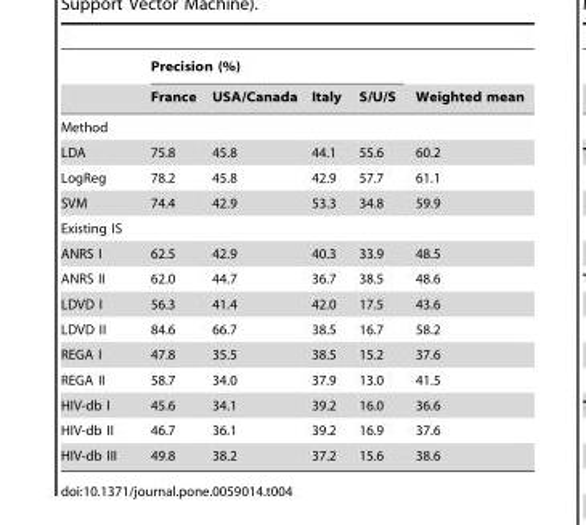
<table><thead><tr><td rowspan="2"></td><td colspan="4">Precision (%)</td><td rowspan="2">Weighted mean</td></tr><tr><td>France</td><td>USA/Canada</td><td>Italy</td><td>S/U/S</td></tr></thead><tbody><tr><td colspan="6">Method</td></tr><tr><td>LDA</td><td>75.8</td><td>45.8</td><td>44.1</td><td>55.6</td><td>60.2</td></tr><tr><td>LogReg</td><td>78.2</td><td>45.8</td><td>42.9</td><td>57.7</td><td>61.1</td></tr><tr><td>SVM</td><td>74.4</td><td>42.9</td><td>53.3</td><td>34.8</td><td>59.9</td></tr><tr><td colspan="6">Existing IS</td></tr><tr><td>ANRS I</td><td>62.5</td><td>42.9</td><td>40.3</td><td>33.9</td><td>48.5</td></tr><tr><td>ANRS II</td><td>62.0</td><td>44.7</td><td>36.7</td><td>38.5</td><td>48.6</td></tr><tr><td>LDVD I</td><td>56.3</td><td>41.4</td><td>42.0</td><td>17.5</td><td>43.6</td></tr><tr><td>LDVD II</td><td>84.6</td><td>66.7</td><td>38.5</td><td>16.7</td><td>58.2</td></tr><tr><td>REGA I</td><td>47.8</td><td>35.5</td><td>38.5</td><td>15.2</td><td>37.6</td></tr><tr><td>REGA II</td><td>58.7</td><td>34.0</td><td>37.9</td><td>13.0</td><td>41.5</td></tr><tr><td>HIV-db I</td><td>45.6</td><td>34.1</td><td>39.2</td><td>16.0</td><td>36.6</td></tr><tr><td>HIV-db II</td><td>46.7</td><td>36.1</td><td>39.2</td><td>16.9</td><td>37.6</td></tr><tr><td>HIV-db III</td><td>49.8</td><td>38.2</td><td>37.2</td><td>15.6</td><td>38.6</td></tr></tbody></table>